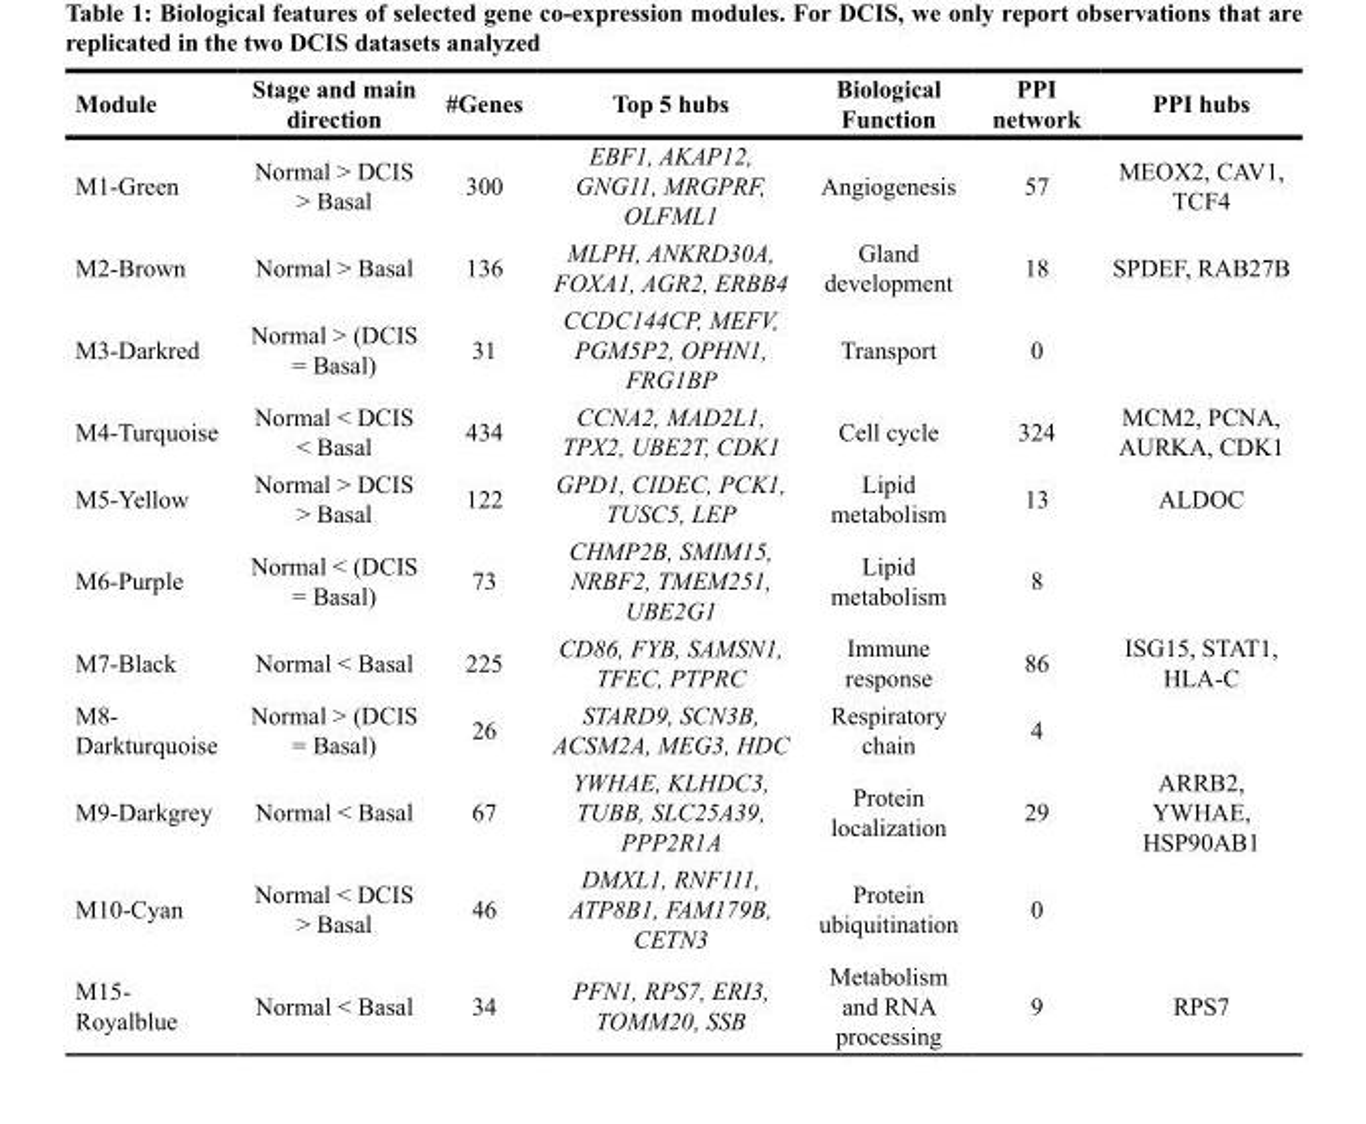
<table><thead><tr><td>Module</td><td>Stage and main direction</td><td>#Genes</td><td>Top 5 hubs</td><td>Biological Function</td><td>PPI network</td><td>PPI hubs</td></tr></thead><tbody><tr><td>M1-Green</td><td>Normal &gt; DCIS &gt; Basal</td><td>300</td><td>EBF1, AKAP12, GNG11, MRGPRF, OLFML1</td><td>Angiogenesis</td><td>57</td><td>MEOX2, CAV1, TCF4</td></tr><tr><td>M2-Brown</td><td>Normal &gt; Basal</td><td>136</td><td>MLPH, ANKRD30A, FOXA1, AGR2, ERBB4</td><td>Gland development</td><td>18</td><td>SPDEF, RAB27B</td></tr><tr><td>M3-Darkred</td><td>Normal &gt; (DCIS = Basal)</td><td>31</td><td>CCDC144CP, MEFV, PGM5P2, OPHN1, FRG1BP</td><td>Transport</td><td>0</td><td></td></tr><tr><td>M4-Turquoise</td><td>Normal &lt; DCIS &lt; Basal</td><td>434</td><td>CCNA2, MAD2L1, TPX2, UBE2T, CDK1</td><td>Cell cycle</td><td>324</td><td>MCM2, PCNA, AURKA, CDK1</td></tr><tr><td>M5-Yellow</td><td>Normal &gt; DCIS &gt; Basal</td><td>122</td><td>GPD1, CIDEC, PCK1, TUSC5, LEP</td><td>Lipid metabolism</td><td>13</td><td>ALDOC</td></tr><tr><td>M6-Purple</td><td>Normal &lt; (DCIS = Basal)</td><td>73</td><td>CHMP2B, SMIM15, NRBF2, TMEM251, UBE2G1</td><td>Lipid metabolism</td><td>8</td><td></td></tr><tr><td>M7-Black</td><td>Normal &lt; Basal</td><td>225</td><td>CD86, FYB, SAMSN1, TFEC, PTPRC</td><td>Immune response</td><td>86</td><td>ISG15, STAT1, HLA-C</td></tr><tr><td>M8- Darkturquoise</td><td>Normal &gt; (DCIS = Basal)</td><td>26</td><td>STARD9, SCN3B, ACSM2A, MEG3, HDC</td><td>Respiratory chain</td><td>4</td><td></td></tr><tr><td>M9-Darkgrey</td><td>Normal &lt; Basal</td><td>67</td><td>YWHAE, KLHDC3, TUBB, SLC25A39, PPP2R1A</td><td>Protein localization</td><td>29</td><td>ARRB2, YWHAE, HSP90AB1</td></tr><tr><td>M10-Cyan</td><td>Normal &lt; DCIS &gt; Basal</td><td>46</td><td>DMXL1, RNF111, ATP8B1, FAM179B, CETN3</td><td>Protein ubiquitination</td><td>0</td><td></td></tr><tr><td>M15- Royalblue</td><td>Normal &lt; Basal</td><td>34</td><td>PFN1, RPS7, ERI3, TOMM20, SSB</td><td>Metabolism and RNA processing</td><td>9</td><td>RPS7</td></tr></tbody></table>